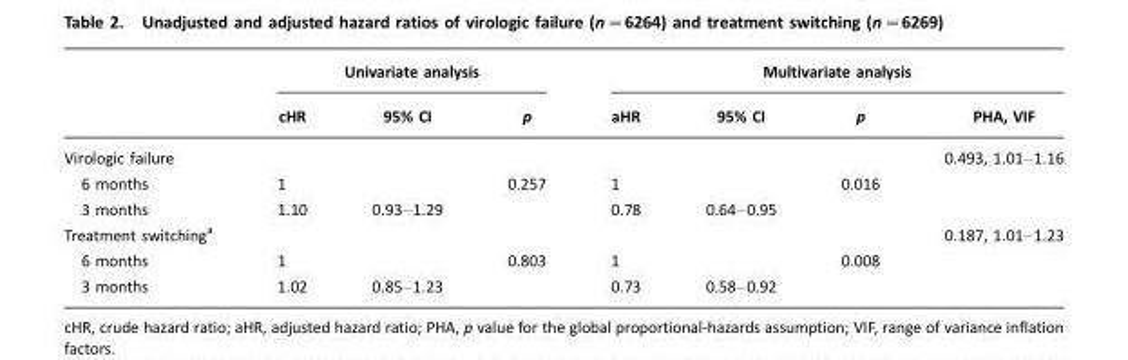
<table><thead><tr><td rowspan="2"></td><td colspan="3">Univariate analysis</td><td colspan="4">Multivariate analysis</td></tr><tr><td>cHR</td><td>95% CI</td><td>p</td><td>aHR</td><td>95% CI</td><td>p</td><td>PHA, VIF</td></tr></thead><tbody><tr><td>Virologic failure</td><td></td><td></td><td></td><td></td><td></td><td></td><td>0.493, 1.01–1.16</td></tr><tr><td>6 months</td><td>1</td><td></td><td>0.257</td><td>1</td><td></td><td>0.016</td><td></td></tr><tr><td>3 months</td><td>1.10</td><td>0.93–1.29</td><td></td><td>0.78</td><td>0.64–0.95</td><td></td><td></td></tr><tr><td>Treatment switching<sup>a</sup></td><td></td><td></td><td></td><td></td><td></td><td></td><td>0.187, 1.01–1.23</td></tr><tr><td>6 months</td><td>1</td><td></td><td>0.803</td><td>1</td><td></td><td>0.008</td><td></td></tr><tr><td>3 months</td><td>1.02</td><td>0.85–1.23</td><td></td><td>0.73</td><td>0.58–0.92</td><td></td><td></td></tr></tbody></table>